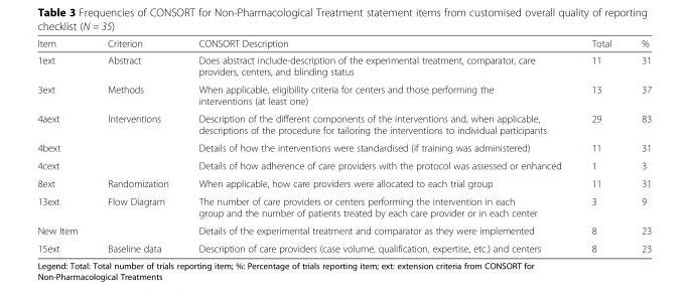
<table><thead><tr><td>Item</td><td>Criterion</td><td>CONSORT Description</td><td>Total</td><td>%</td></tr></thead><tbody><tr><td>1ext</td><td>Abstract</td><td>Does abstract include-description of the experimental treatment, comparator, care providers, centers, and blinding status</td><td>11</td><td>31</td></tr><tr><td>3ext</td><td>Methods</td><td>When applicable, eligibility criteria for centers and those performing the interventions (at least one)</td><td>13</td><td>37</td></tr><tr><td>4aext</td><td>Interventions</td><td>Description of the different components of the interventions and, when applicable, descriptions of the procedure for tailoring the interventions to individual participants</td><td>29</td><td>83</td></tr><tr><td>4bext</td><td></td><td>Details of how the interventions were standardised (if training was administered)</td><td>11</td><td>31</td></tr><tr><td>4cext</td><td></td><td>Details of how adherence of care providers with the protocol was assessed or enhanced</td><td>1</td><td>3</td></tr><tr><td>8ext</td><td>Randomization</td><td>When applicable, how care providers were allocated to each trial group</td><td>11</td><td>31</td></tr><tr><td>13ext</td><td>Flow Diagram</td><td>The number of care providers or centers performing the intervention in each group and the number of patients treated by each care provider or in each center</td><td>3</td><td>9</td></tr><tr><td>New Item</td><td></td><td>Details of the experimental treatment and comparator as they were implemented</td><td>8</td><td>23</td></tr><tr><td>15ext</td><td>Baseline data</td><td>Description of care providers (case volume, qualification, expertise, etc.) and centers</td><td>8</td><td>23</td></tr></tbody></table>